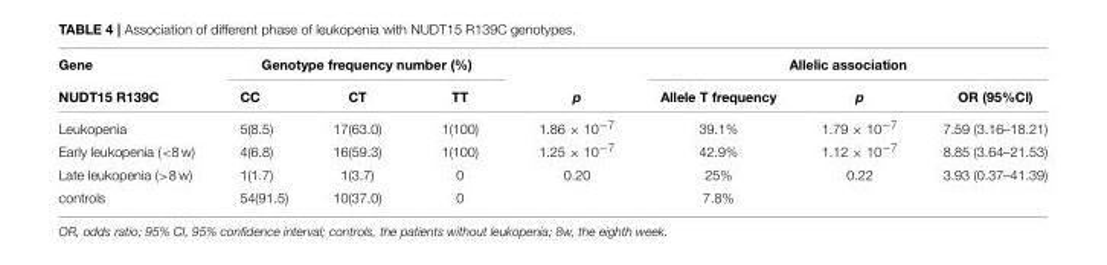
<table><thead><tr><td rowspan="2">Gene NUDT15 R139C</td><td colspan="3">Genotype frequency number (%)</td><td rowspan="2">p</td><td colspan="3">Allelic association</td></tr><tr><td>CC</td><td>CT</td><td>TT</td><td>Allele T frequency</td><td>p</td><td>OR (95%Cl)</td></tr></thead><tbody><tr><td>Leukopenia</td><td>5(8.5)</td><td>17(63.0)</td><td>1(100)</td><td>1.86 × 10<sup>−7</sup></td><td>39.1%</td><td>1.79 × 10<sup>−7</sup></td><td>7.59 (3.16–18.21)</td></tr><tr><td>Early leukopenia (&lt;8 w)</td><td>4(6.8)</td><td>16(59.3)</td><td>1(100)</td><td>1.25 × 10<sup>−7</sup></td><td>42.9%</td><td>1.12 × 10<sup>−7</sup></td><td>8.85 (3.64–21.53)</td></tr><tr><td>Late leukopenia (&gt;8 w)</td><td>1(1.7)</td><td>1(3.7)</td><td>0</td><td>0.20</td><td>25%</td><td>0.22</td><td>3.93 (0.37–41.39)</td></tr><tr><td>controls</td><td>54(91.5)</td><td>10(37.0)</td><td>0</td><td></td><td>7.8%</td><td></td><td></td></tr></tbody></table>